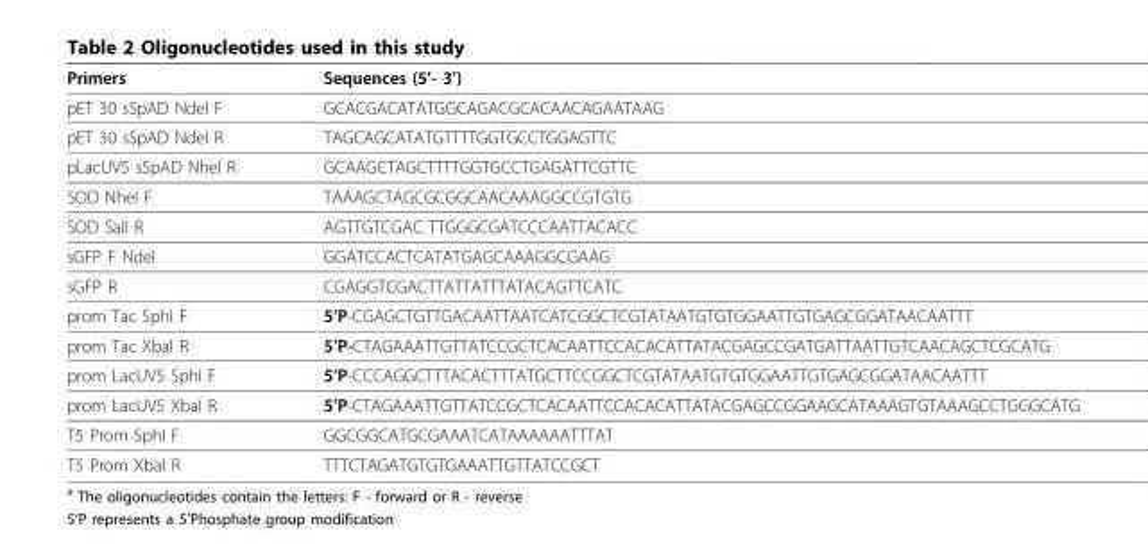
<table><thead><tr><td>Primers</td><td>Sequences (5’- 3’)</td></tr></thead><tbody><tr><td>pET 30 sSpAD NdeI F</td><td>GCACGACATATGGCAGACGCACAACAGAATAAG</td></tr><tr><td>pET 30 sSpAD NdeI R</td><td>TAGCAGCATATGTTTTGGTGCCTGGAGTTC</td></tr><tr><td>pLacUV5 sSpAD NheI R</td><td>GCAAGCTAGCTTTTGGTGCCTGAGATTCGTTC</td></tr><tr><td>SOD NheI F</td><td>TAAAGCTAGCGCGGCAACAAAGGCCGTGTG</td></tr><tr><td>SOD SalI R</td><td>AGTTGTCGAC TTGGGCGATCCCAATTACACC</td></tr><tr><td>sGFP F NdeI</td><td>GGATCCACTCATATGAGCAAAGGCGAAG</td></tr><tr><td>sGFP R</td><td>CGAGGTCGACTTATTATTTATACAGTTCATC</td></tr><tr><td>prom Tac SphI F</td><td>5’P-CGAGCTGTTGACAATTAATCATCGGCTCGTATAATGTGTGGAATTGTGAGCGGATAACAATTT</td></tr><tr><td>prom Tac XbaI R</td><td>5’P-CTAGAAATTGTTATCCGCTCACAATTCCACACATTATACGAGCCGATGATTAATTGTCAACAGCTCGCATG</td></tr><tr><td>prom LacUV5 SphI F</td><td>5’P-CCCAGGCTTTACACTTTATGCTTCCGGCTCGTATAATGTGTGGAATTGTGAGCGGATAACAATTT</td></tr><tr><td>prom LacUV5 XbaI R</td><td>5’P-CTAGAAATTGTTATCCGCTCACAATTCCACACATTATACGAGCCGGAAGCATAAAGTGTAAAGCCTGGGCATG</td></tr><tr><td>T5 Prom SphI F</td><td>GGCGGCATGCGAAATCATAAAAAATTTAT</td></tr><tr><td>T5 Prom XbaI R</td><td>TTTCTAGATGTGTGAAATTGTTATCCGCT</td></tr></tbody></table>